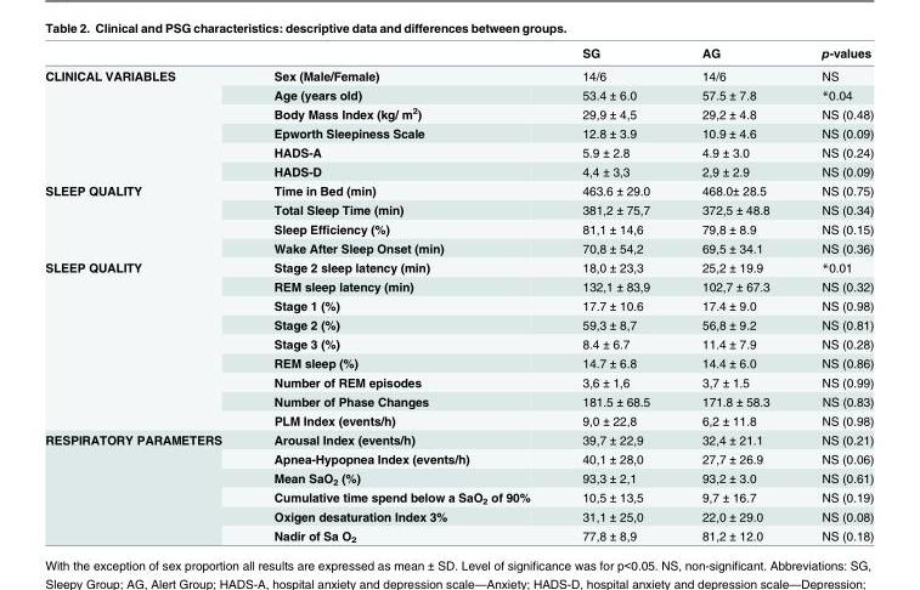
<table><thead><tr><td></td><td></td><td>SG</td><td>AG</td><td>p-values</td></tr></thead><tbody><tr><td rowspan="6">CLINICAL VARIABLES</td><td>Sex (Male/Female)</td><td>14/6</td><td>14/6</td><td>NS</td></tr><tr><td>Age (years old)</td><td>53.4 ± 6.0</td><td>57.5 ± 7.8</td><td>*0.04</td></tr><tr><td>Body Mass Index (kg/ m<sup>2</sup>)</td><td>29,9 ± 4,5</td><td>29,2 ± 4.8</td><td>NS (0.48)</td></tr><tr><td>Epworth Sleepiness Scale</td><td>12.8 ± 3.9</td><td>10.9 ± 4.6</td><td>NS (0.09)</td></tr><tr><td>HADS-A</td><td>5.9 ± 2.8</td><td>4.9 ± 3.0</td><td>NS (0.24)</td></tr><tr><td>HADS-D</td><td>4,4 ± 3,3</td><td>2,9 ± 2.9</td><td>NS (0.09)</td></tr><tr><td rowspan="4">SLEEP QUALITY</td><td>Time in Bed (min)</td><td>463.6 ± 29.0</td><td>468.0± 28.5</td><td>NS (0.75)</td></tr><tr><td>Total Sleep Time (min)</td><td>381,2 ± 75,7</td><td>372,5 ± 48.8</td><td>NS (0.34)</td></tr><tr><td>Sleep Efficiency (%)</td><td>81,1 ± 14,6</td><td>79,8 ± 8.9</td><td>NS (0.15)</td></tr><tr><td>Wake After Sleep Onset (min)</td><td>70,8 ± 54,2</td><td>69,5 ± 34.1</td><td>NS (0.36)</td></tr><tr><td rowspan="9">SLEEP QUALITY</td><td>Stage 2 sleep latency (min)</td><td>18,0 ± 23,3</td><td>25,2 ± 19.9</td><td>*0.01</td></tr><tr><td>REM sleep latency (min)</td><td>132,1 ± 83,9</td><td>102,7 ± 67.3</td><td>NS (0.32)</td></tr><tr><td>Stage 1 (%)</td><td>17.7 ± 10.6</td><td>17.4 ± 9.0</td><td>NS (0.98)</td></tr><tr><td>Stage 2 (%)</td><td>59,3 ± 8,7</td><td>56,8 ± 9.2</td><td>NS (0.81)</td></tr><tr><td>Stage 3 (%)</td><td>8.4 ± 6.7</td><td>11.4 ± 7.9</td><td>NS (0.28)</td></tr><tr><td>REM sleep (%)</td><td>14.7 ± 6.8</td><td>14.4 ± 6.0</td><td>NS (0.86)</td></tr><tr><td>Number of REM episodes</td><td>3,6 ± 1,6</td><td>3,7 ± 1.5</td><td>NS (0.99)</td></tr><tr><td>Number of Phase Changes</td><td>181.5 ± 68.5</td><td>171.8 ± 58.3</td><td>NS (0.83)</td></tr><tr><td>PLM Index (events/h)</td><td>9,0 ± 22,8</td><td>6,2 ± 11.8</td><td>NS (0.98)</td></tr><tr><td rowspan="6">RESPIRATORY PARAMETERS</td><td>Arousal Index (events/h)</td><td>39,7 ± 22,9</td><td>32,4 ± 21.1</td><td>NS (0.21)</td></tr><tr><td>Apnea-Hypopnea Index (events/h)</td><td>40,1 ± 28,0</td><td>27,7 ± 26.9</td><td>NS (0.06)</td></tr><tr><td>Mean SaO<sub>2</sub> (%)</td><td>93,3 ± 2,1</td><td>93,2 ± 3.0</td><td>NS (0.61)</td></tr><tr><td>Cumulative time spend below a SaO<sub>2</sub> of 90%</td><td>10,5 ± 13,5</td><td>9,7 ± 16.7</td><td>NS (0.19)</td></tr><tr><td>Oxigen desaturation Index 3%</td><td>31,1 ± 25,0</td><td>22,0 ± 29.0</td><td>NS (0.08)</td></tr><tr><td>Nadir of Sa O<sub>2</sub></td><td>77,8 ± 8,9</td><td>81,2 ± 12.0</td><td>NS (0.18)</td></tr></tbody></table>